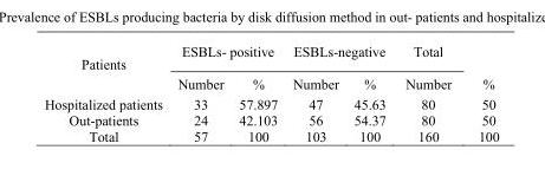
<table><thead><tr><td rowspan="2">Patients</td><td colspan="2">ESBLs- positive</td><td colspan="2">ESBLs-negative</td><td rowspan="2">Total Number</td><td rowspan="2">%</td></tr><tr><td>Number</td><td>%</td><td>Number</td><td>%</td></tr></thead><tbody><tr><td>Hospitalized patients</td><td>33</td><td>57.897</td><td>47</td><td>45.63</td><td>80</td><td>50</td></tr><tr><td>Out-patients</td><td>24</td><td>42.103</td><td>56</td><td>54.37</td><td>80</td><td>50</td></tr><tr><td>Total</td><td>57</td><td>100</td><td>103</td><td>100</td><td>160</td><td>100</td></tr></tbody></table>